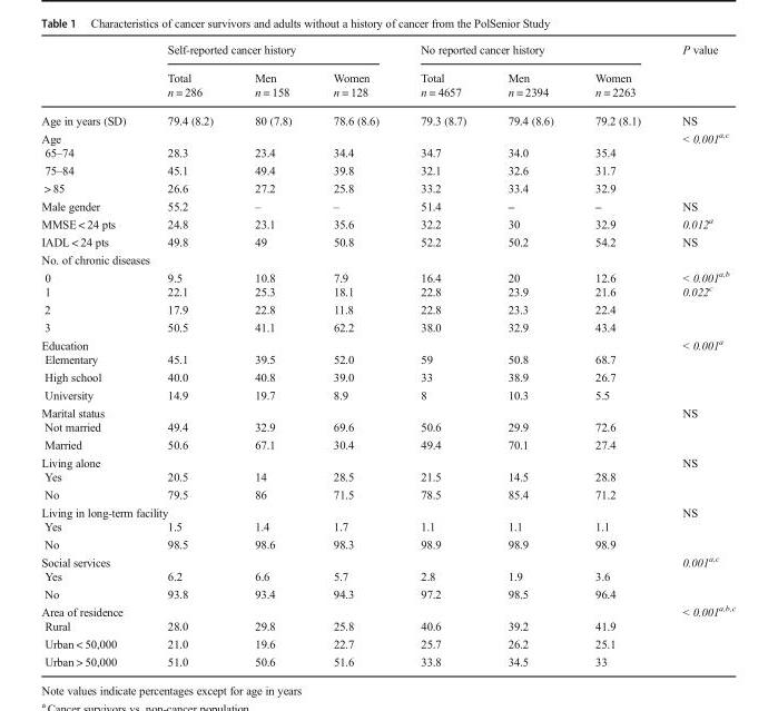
<table><thead><tr><td rowspan="2"></td><td colspan="3">Self-reported cancer history</td><td colspan="3">No reported cancer history</td><td rowspan="2">P value</td></tr><tr><td>Total n = 286</td><td>Men n = 158</td><td>Women n = 128</td><td>Total n = 4657</td><td>Men n = 2394</td><td>Women n = 2263</td></tr></thead><tbody><tr><td>Age in years (SD)</td><td>79.4 (8.2)</td><td>80 (7.8)</td><td>78.6 (8.6)</td><td>79.3 (8.7)</td><td>79.4 (8.6)</td><td>79.2 (8.1)</td><td>NS</td></tr><tr><td colspan="7">Age</td><td rowspan="4">&lt; 0.001<sup>a,c</sup></td></tr><tr><td>65–74</td><td>28.3</td><td>23.4</td><td>34.4</td><td>34.7</td><td>34.0</td><td>35.4</td></tr><tr><td>75–84</td><td>45.1</td><td>49.4</td><td>39.8</td><td>32.1</td><td>32.6</td><td>31.7</td></tr><tr><td>&gt; 85</td><td>26.6</td><td>27.2</td><td>25.8</td><td>33.2</td><td>33.4</td><td>32.9</td></tr><tr><td>Male gender</td><td>55.2</td><td>–</td><td>–</td><td>51.4</td><td>–</td><td>–</td><td>NS</td></tr><tr><td>MMSE &lt; 24 pts</td><td>24.8</td><td>23.1</td><td>35.6</td><td>32.2</td><td>30</td><td>32.9</td><td>0.012<sup>a</sup></td></tr><tr><td>IADL &lt; 24 pts</td><td>49.8</td><td>49</td><td>50.8</td><td>52.2</td><td>50.2</td><td>54.2</td><td>NS</td></tr><tr><td colspan="8">No. of chronic diseases</td></tr><tr><td>0</td><td>9.5</td><td>10.8</td><td>7.9</td><td>16.4</td><td>20</td><td>12.6</td><td rowspan="4">&lt; 0.001<sup>a,b</sup> 0.022<sup>c</sup></td></tr><tr><td>1</td><td>22.1</td><td>25.3</td><td>18.1</td><td>22.8</td><td>23.9</td><td>21.6</td></tr><tr><td>2</td><td>17.9</td><td>22.8</td><td>11.8</td><td>22.8</td><td>23.3</td><td>22.4</td></tr><tr><td>3</td><td>50.5</td><td>41.1</td><td>62.2</td><td>38.0</td><td>32.9</td><td>43.4</td></tr><tr><td colspan="7">Education</td><td rowspan="4">&lt; 0.001<sup>a</sup></td></tr><tr><td>Elementary</td><td>45.1</td><td>39.5</td><td>52.0</td><td>59</td><td>50.8</td><td>68.7</td></tr><tr><td>High school</td><td>40.0</td><td>40.8</td><td>39.0</td><td>33</td><td>38.9</td><td>26.7</td></tr><tr><td>University</td><td>14.9</td><td>19.7</td><td>8.9</td><td>8</td><td>10.3</td><td>5.5</td></tr><tr><td colspan="7">Marital status</td><td rowspan="3">NS</td></tr><tr><td>Not married</td><td>49.4</td><td>32.9</td><td>69.6</td><td>50.6</td><td>29.9</td><td>72.6</td></tr><tr><td>Married</td><td>50.6</td><td>67.1</td><td>30.4</td><td>49.4</td><td>70.1</td><td>27.4</td></tr><tr><td colspan="7">Living alone</td><td rowspan="3">NS</td></tr><tr><td>Yes</td><td>20.5</td><td>14</td><td>28.5</td><td>21.5</td><td>14.5</td><td>28.8</td></tr><tr><td>No</td><td>79.5</td><td>86</td><td>71.5</td><td>78.5</td><td>85.4</td><td>71.2</td></tr><tr><td colspan="7">Living in long-term facility</td><td rowspan="3">NS</td></tr><tr><td>Yes</td><td>1.5</td><td>1.4</td><td>1.7</td><td>1.1</td><td>1.1</td><td>1.1</td></tr><tr><td>No</td><td>98.5</td><td>98.6</td><td>98.3</td><td>98.9</td><td>98.9</td><td>98.9</td></tr><tr><td colspan="7">Social services</td><td rowspan="3">0.001<sup>a,c</sup></td></tr><tr><td>Yes</td><td>6.2</td><td>6.6</td><td>5.7</td><td>2.8</td><td>1.9</td><td>3.6</td></tr><tr><td>No</td><td>93.8</td><td>93.4</td><td>94.3</td><td>97.2</td><td>98.5</td><td>96.4</td></tr><tr><td colspan="7">Area of residence</td><td rowspan="4">&lt; 0.001<sup>a,b,c</sup></td></tr><tr><td>Rural</td><td>28.0</td><td>29.8</td><td>25.8</td><td>40.6</td><td>39.2</td><td>41.9</td></tr><tr><td>Urban &lt; 50,000</td><td>21.0</td><td>19.6</td><td>22.7</td><td>25.7</td><td>26.2</td><td>25.1</td></tr><tr><td>Urban &gt; 50,000</td><td>51.0</td><td>50.6</td><td>51.6</td><td>33.8</td><td>34.5</td><td>33</td></tr></tbody></table>